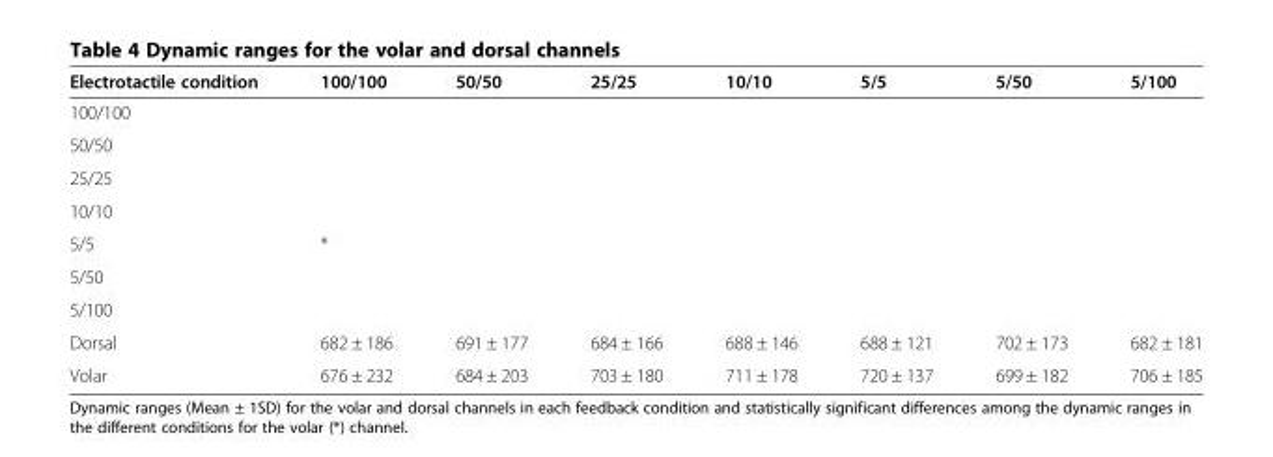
<table><thead><tr><td>Electrotactile condition</td><td>100/100</td><td>50/50</td><td>25/25</td><td>10/10</td><td>5/5</td><td>5/50</td><td>5/100</td></tr></thead><tbody><tr><td colspan="8">100/100</td></tr><tr><td colspan="8">50/50</td></tr><tr><td colspan="8">25/25</td></tr><tr><td colspan="8">10/10</td></tr><tr><td>5/5</td><td>*</td><td></td><td></td><td></td><td></td><td></td><td></td></tr><tr><td colspan="8">5/50</td></tr><tr><td colspan="8">5/100</td></tr><tr><td>Dorsal</td><td>682 ± 186</td><td>691 ± 177</td><td>684 ± 166</td><td>688 ± 146</td><td>688 ± 121</td><td>702 ± 173</td><td>682 ± 181</td></tr><tr><td>Volar</td><td>676 ± 232</td><td>684 ± 203</td><td>703 ± 180</td><td>711 ± 178</td><td>720 ± 137</td><td>699 ± 182</td><td>706 ± 185</td></tr></tbody></table>